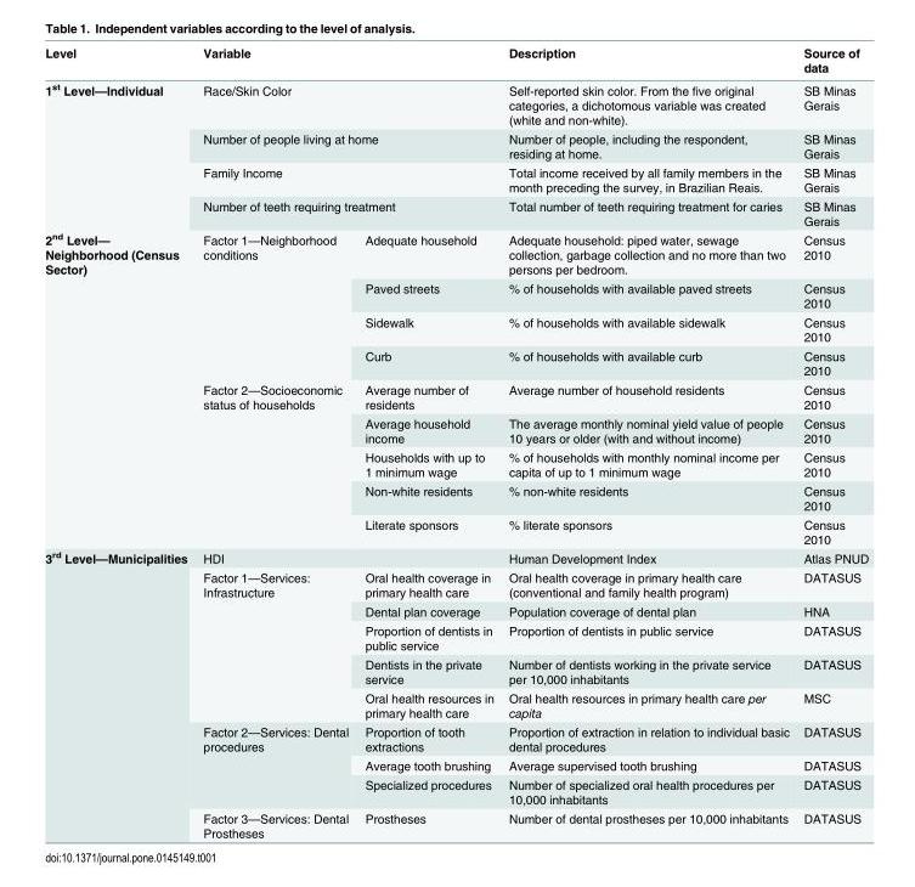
<table><thead><tr><td>Level</td><td colspan="2">Variable</td><td>Description</td><td>Source of data</td></tr></thead><tbody><tr><td rowspan="4">1<sup>st</sup> Level—Individual</td><td colspan="2">Race/Skin Color</td><td>Self-reported skin color. From the five original categories, a dichotomous variable was created (white and non-white).</td><td>SB Minas Gerais</td></tr><tr><td colspan="2">Number of people living at home</td><td>Number of people, including the respondent, residing at home.</td><td>SB Minas Gerais</td></tr><tr><td colspan="2">Family Income</td><td>Total income received by all family members in the month preceding the survey, in Brazilian Reais.</td><td>SB Minas Gerais</td></tr><tr><td colspan="2">Number of teeth requiring treatment</td><td>Total number of teeth requiring treatment for caries</td><td>SB Minas Gerais</td></tr><tr><td rowspan="9">2<sup>nd</sup> Level— Neighborhood (Census Sector)</td><td rowspan="4">Factor 1—Neighborhood conditions</td><td>Adequate household</td><td>Adequate household: piped water, sewage collection, garbage collection and no more than two persons per bedroom.</td><td>Census 2010</td></tr><tr><td>Paved streets</td><td>% of households with available paved streets</td><td>Census 2010</td></tr><tr><td>Sidewalk</td><td>% of households with available sidewalk</td><td>Census 2010</td></tr><tr><td>Curb</td><td>% of households with available curb</td><td>Census 2010</td></tr><tr><td rowspan="5">Factor 2—Socioeconomic status of households</td><td>Average number of residents</td><td>Average number of household residents</td><td>Census 2010</td></tr><tr><td>Average household income</td><td>The average monthly nominal yield value of people 10 years or older (with and without income)</td><td>Census 2010</td></tr><tr><td>Households with up to 1 minimum wage</td><td>% of households with monthly nominal income per capita of up to 1 minimum wage</td><td>Census 2010</td></tr><tr><td>Non-white residents</td><td>% non-white residents</td><td>Census 2010</td></tr><tr><td>Literate sponsors</td><td>% literate sponsors</td><td>Census 2010</td></tr><tr><td rowspan="10">3<sup>rd</sup> Level—Municipalities</td><td>HDI</td><td></td><td>Human Development Index</td><td>Atlas PNUD</td></tr><tr><td rowspan="5">Factor 1—Services: Infrastructure</td><td>Oral health coverage in primary health care</td><td>Oral health coverage in primary health care (conventional and family health program)</td><td>DATASUS</td></tr><tr><td>Dental plan coverage</td><td>Population coverage of dental plan</td><td>HNA</td></tr><tr><td>Proportion of dentists in public service</td><td>Proportion of dentists in public service</td><td>DATASUS</td></tr><tr><td>Dentists in the private service</td><td>Number of dentists working in the private service per 10,000 inhabitants</td><td>DATASUS</td></tr><tr><td>Oral health resources in primary health care</td><td>Oral health resources in primary health care per capita</td><td>MSC</td></tr><tr><td rowspan="3">Factor 2—Services: Dental procedures</td><td>Proportion of tooth extractions</td><td>Proportion of extraction in relation to individual basic dental procedures</td><td>DATASUS</td></tr><tr><td>Average tooth brushing</td><td>Average supervised tooth brushing</td><td>DATASUS</td></tr><tr><td>Specialized procedures</td><td>Number of specialized oral health procedures per 10,000 inhabitants</td><td>DATASUS</td></tr><tr><td>Factor 3—Services: Dental Prostheses</td><td>Prostheses</td><td>Number of dental prostheses per 10,000 inhabitants</td><td>DATASUS</td></tr></tbody></table>